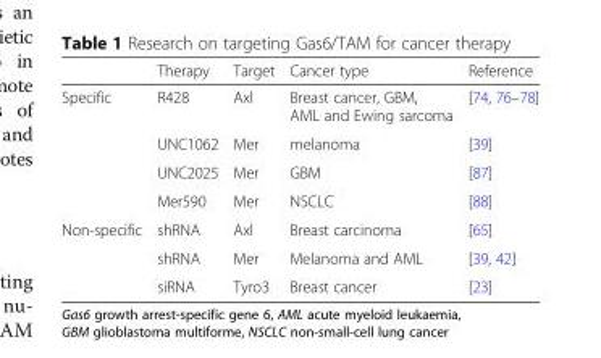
<table><thead><tr><td></td><td>Therapy</td><td>Target</td><td>Cancer type</td><td>Reference</td></tr></thead><tbody><tr><td rowspan="4">Specific</td><td>R428</td><td>Axl</td><td>Breast cancer, GBM, AML and Ewing sarcoma</td><td>[74, 76–78]</td></tr><tr><td>UNC1062</td><td>Mer</td><td>melanoma</td><td>[39]</td></tr><tr><td>UNC2025</td><td>Mer</td><td>GBM</td><td>[87]</td></tr><tr><td>Mer590</td><td>Mer</td><td>NSCLC</td><td>[88]</td></tr><tr><td rowspan="3">Non-specific</td><td>shRNA</td><td>Axl</td><td>Breast carcinoma</td><td>[65]</td></tr><tr><td>shRNA</td><td>Mer</td><td>Melanoma and AML</td><td>[39, 42]</td></tr><tr><td>siRNA</td><td>Tyro3</td><td>Breast cancer</td><td>[23]</td></tr></tbody></table>